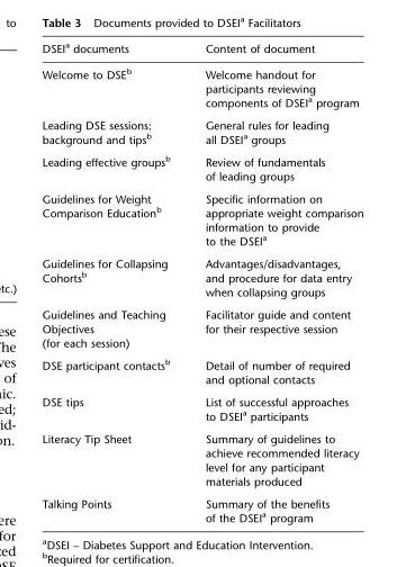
<table><thead><tr><td>DSEI<sup>a</sup> documents</td><td>Content of document</td></tr></thead><tbody><tr><td>Welcome to DSE<sup>b</sup></td><td>Welcome handout for participants reviewing components of DSEI<sup>a</sup> program</td></tr><tr><td>Leading DSE sessions: background and tips<sup>b</sup></td><td>General rules for leading all DSEI<sup>a</sup> groups</td></tr><tr><td>Leading effective groups<sup>b</sup></td><td>Review of fundamentals of leading groups</td></tr><tr><td>Guidelines for Weight Comparison Education<sup>b</sup></td><td>Specific information on appropriate weight comparison information to provide to the DSEI<sup>a</sup></td></tr><tr><td>Guidelines for Collapsing Cohorts<sup>b</sup></td><td>Advantages/disadvantages, and procedure for data entry when collapsing groups</td></tr><tr><td>Guidelines and Teaching Objectives (for each session)</td><td>Facilitator guide and content for their respective session</td></tr><tr><td>DSE participant contacts<sup>b</sup></td><td>Detail of number of required and optional contacts</td></tr><tr><td>DSE tips</td><td>List of successful approaches to DSEI<sup>a</sup> participants</td></tr><tr><td>Literacy Tip Sheet</td><td>Summary of guidelines to achieve recommended literacy level for any participant materials produced</td></tr><tr><td>Talking Points</td><td>Summary of the benefits of the DSEI<sup>a</sup> program</td></tr></tbody></table>